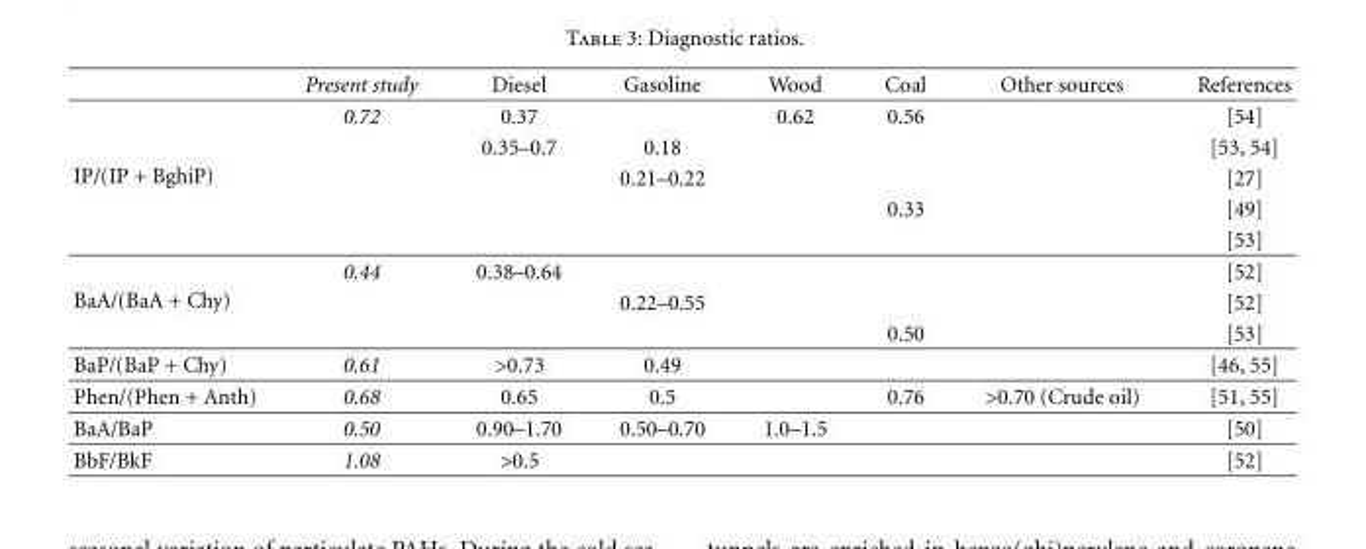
<table><thead><tr><td></td><td>Present study</td><td>Diesel</td><td>Gasoline</td><td>Wood</td><td>Coal</td><td>Other sources</td><td>References</td></tr></thead><tbody><tr><td rowspan="5">IP/(IP + BghiP)</td><td>0.72</td><td>0.37</td><td></td><td>0.62</td><td>0.56</td><td></td><td>[54]</td></tr><tr><td></td><td>0.35–0.7</td><td>0.18</td><td></td><td></td><td></td><td>[53, 54]</td></tr><tr><td></td><td></td><td>0.21–0.22</td><td></td><td></td><td></td><td>[27]</td></tr><tr><td></td><td></td><td></td><td></td><td>0.33</td><td></td><td>[49]</td></tr><tr><td></td><td></td><td></td><td></td><td></td><td></td><td>[53]</td></tr><tr><td rowspan="3">BaA/(BaA + Chy)</td><td>0.44</td><td>0.38–0.64</td><td></td><td></td><td></td><td></td><td>[52]</td></tr><tr><td></td><td></td><td>0.22–0.55</td><td></td><td></td><td></td><td>[52]</td></tr><tr><td></td><td></td><td></td><td></td><td>0.50</td><td></td><td>[53]</td></tr><tr><td>BaP/(BaP + Chy)</td><td>0.61</td><td>&gt;0.73</td><td>0.49</td><td></td><td></td><td></td><td>[46, 55]</td></tr><tr><td>Phen/(Phen + Anth)</td><td>0.68</td><td>0.65</td><td>0.5</td><td></td><td>0.76</td><td>&gt;0.70 (Crude oil)</td><td>[51, 55]</td></tr><tr><td>BaA/BaP</td><td>0.50</td><td>0.90–1.70</td><td>0.50–0.70</td><td>1.0–1.5</td><td></td><td></td><td>[50]</td></tr><tr><td>BbF/BkF</td><td>1.08</td><td>&gt;0.5</td><td></td><td></td><td></td><td></td><td>[52]</td></tr></tbody></table>